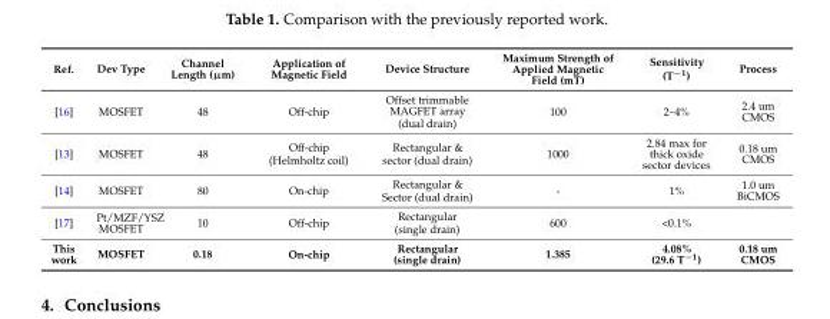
<table><thead><tr><td>Ref.</td><td>Dev Type</td><td>Channel Length (µm)</td><td>Application of Magnetic Field</td><td>Device Structure</td><td>Maximum Strength of Applied Magnetic Field (mT)</td><td>Sensitivity (T<sup>−1</sup>)</td><td>Process</td></tr></thead><tbody><tr><td>[16]</td><td>MOSFET</td><td>48</td><td>Off-chip</td><td>Offset trimmable MAGFET array (dual drain)</td><td>100</td><td>2–4%</td><td>2.4 um CMOS</td></tr><tr><td>[13]</td><td>MOSFET</td><td>48</td><td>Off-chip (Helmholtz coil)</td><td>Rectangular &amp; sector (dual drain)</td><td>1000</td><td>2.84 max for thick oxide sector devices</td><td>0.18 um CMOS</td></tr><tr><td>[14]</td><td>MOSFET</td><td>80</td><td>On-chip</td><td>Rectangular &amp; Sector (dual drain)</td><td>-</td><td>1%</td><td>1.0 um BiCMOS</td></tr><tr><td>[17]</td><td>Pt/MZF/YSZ MOSFET</td><td>10</td><td>Off-chip</td><td>Rectangular (single drain)</td><td>600</td><td>&lt;0.1%</td><td></td></tr><tr><td>This work</td><td>MOSFET</td><td>0.18</td><td>On-chip</td><td>Rectangular (single drain)</td><td>1.385</td><td>4.08% (29.6 T<sup>−1</sup>)</td><td>0.18 um CMOS</td></tr></tbody></table>